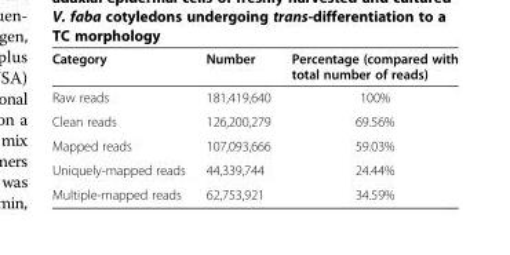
<table><thead><tr><td>Category</td><td>Number</td><td>Percentage (compared with total number of reads)</td></tr></thead><tbody><tr><td>Raw reads</td><td>181,419,640</td><td>100%</td></tr><tr><td>Clean reads</td><td>126,200,279</td><td>69.56%</td></tr><tr><td>Mapped reads</td><td>107,093,666</td><td>59.03%</td></tr><tr><td>Uniquely-mapped reads</td><td>44,339,744</td><td>24.44%</td></tr><tr><td>Multiple-mapped reads</td><td>62,753,921</td><td>34.59%</td></tr></tbody></table>